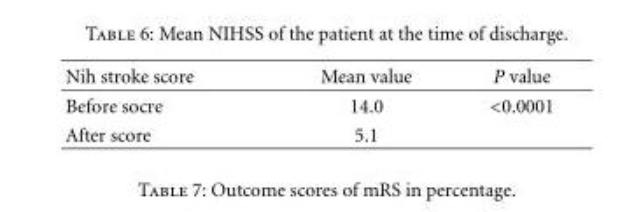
<table><thead><tr><td>Nih stroke score</td><td>Mean value</td><td>P value</td></tr></thead><tbody><tr><td>Before socre</td><td>14.0</td><td>&lt;0.0001</td></tr><tr><td>After score</td><td>5.1</td><td></td></tr></tbody></table>